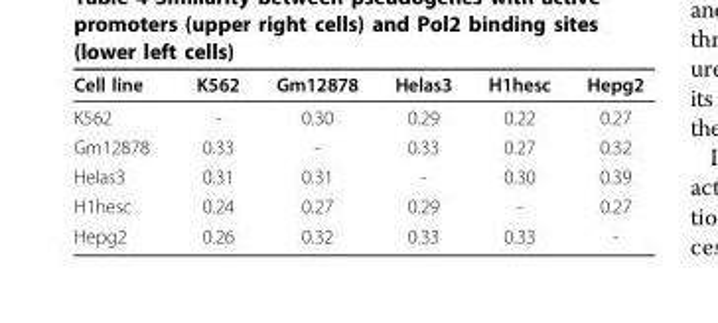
<table><thead><tr><td>Cell line</td><td>K562</td><td>Gm12878</td><td>Helas3</td><td>H1hesc</td><td>Hepg2</td></tr></thead><tbody><tr><td>K562</td><td>-</td><td>0.30</td><td>0.29</td><td>0.22</td><td>0.27</td></tr><tr><td>Gm12878</td><td>0.33</td><td>-</td><td>0.33</td><td>0.27</td><td>0.32</td></tr><tr><td>Helas3</td><td>0.31</td><td>0.31</td><td>-</td><td>0.30</td><td>0.39</td></tr><tr><td>H1hesc</td><td>0.24</td><td>0.27</td><td>0.29</td><td>-</td><td>0.27</td></tr><tr><td>Hepg2</td><td>0.26</td><td>0.32</td><td>0.33</td><td>0.33</td><td>-</td></tr></tbody></table>